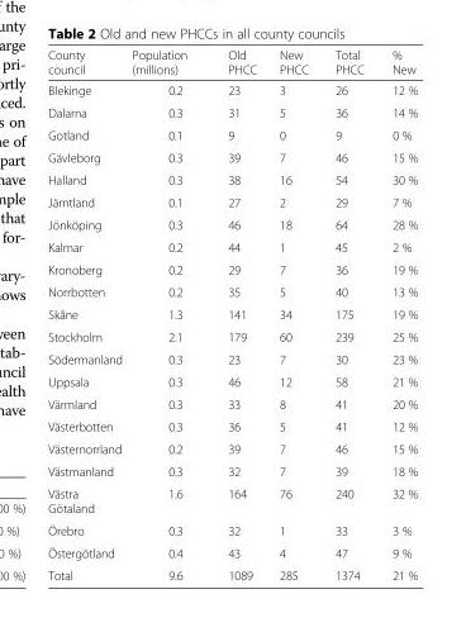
<table><thead><tr><td>County council</td><td>Population (millions)</td><td>Old PHCC</td><td>New PHCC</td><td>Total PHCC</td><td>% New</td></tr></thead><tbody><tr><td>Blekinge</td><td>0.2</td><td>23</td><td>3</td><td>26</td><td>12 %</td></tr><tr><td>Dalarna</td><td>0.3</td><td>31</td><td>5</td><td>36</td><td>14 %</td></tr><tr><td>Gotland</td><td>0.1</td><td>9</td><td>0</td><td>9</td><td>0 %</td></tr><tr><td>Gävleborg</td><td>0.3</td><td>39</td><td>7</td><td>46</td><td>15 %</td></tr><tr><td>Halland</td><td>0.3</td><td>38</td><td>16</td><td>54</td><td>30 %</td></tr><tr><td>Jämtland</td><td>0.1</td><td>27</td><td>2</td><td>29</td><td>7 %</td></tr><tr><td>Jönköping</td><td>0.3</td><td>46</td><td>18</td><td>64</td><td>28 %</td></tr><tr><td>Kalmar</td><td>0.2</td><td>44</td><td>1</td><td>45</td><td>2 %</td></tr><tr><td>Kronoberg</td><td>0.2</td><td>29</td><td>7</td><td>36</td><td>19 %</td></tr><tr><td>Norrbotten</td><td>0.2</td><td>35</td><td>5</td><td>40</td><td>13 %</td></tr><tr><td>Skåne</td><td>1.3</td><td>141</td><td>34</td><td>175</td><td>19 %</td></tr><tr><td>Stockholm</td><td>2.1</td><td>179</td><td>60</td><td>239</td><td>25 %</td></tr><tr><td>Södermanland</td><td>0.3</td><td>23</td><td>7</td><td>30</td><td>23 %</td></tr><tr><td>Uppsala</td><td>0.3</td><td>46</td><td>12</td><td>58</td><td>21 %</td></tr><tr><td>Värmland</td><td>0.3</td><td>33</td><td>8</td><td>41</td><td>20 %</td></tr><tr><td>Västerbotten</td><td>0.3</td><td>36</td><td>5</td><td>41</td><td>12 %</td></tr><tr><td>Västernorrland</td><td>0.2</td><td>39</td><td>7</td><td>46</td><td>15 %</td></tr><tr><td>Västmanland</td><td>0.3</td><td>32</td><td>7</td><td>39</td><td>18 %</td></tr><tr><td>Västra Götaland</td><td>1.6</td><td>164</td><td>76</td><td>240</td><td>32 %</td></tr><tr><td>Örebro</td><td>0.3</td><td>32</td><td>1</td><td>33</td><td>3 %</td></tr><tr><td>Östergötland</td><td>0.4</td><td>43</td><td>4</td><td>47</td><td>9 %</td></tr><tr><td>Total</td><td>9.6</td><td>1089</td><td>285</td><td>1374</td><td>21 %</td></tr></tbody></table>